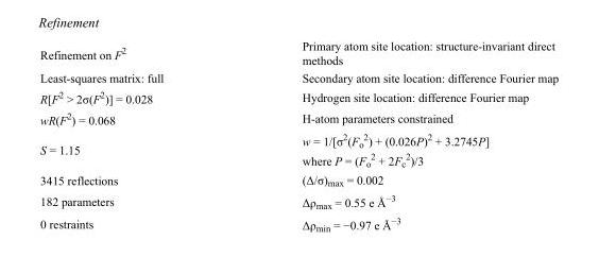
<table><tbody><tr><td>Refinement on F<sup>2</sup></td><td>Primary atom site location: structure-invariant direct methods</td></tr><tr><td>Least-squares matrix: full</td><td>Secondary atom site location: difference Fourier map</td></tr><tr><td>R[F<sup>2</sup> &gt; 2σ(F<sup>2</sup>)] = 0.028</td><td>Hydrogen site location: difference Fourier map</td></tr><tr><td>wR(F<sup>2</sup>) = 0.068</td><td>H-atom parameters constrained</td></tr><tr><td>S = 1.15</td><td>w = 1/[σ<sup>2</sup>(F<sub>o</sub> <sup>2</sup>) + (0.026P)<sup>2</sup> + 3.2745P] where P = (F<sub>o</sub> <sup>2</sup> + 2F<sub>c</sub> <sup>2</sup>)/3</td></tr><tr><td>3415 reflections</td><td>(Δ/σ)<sub>max</sub> = 0.002</td></tr><tr><td>182 parameters</td><td>Δρ<sub>max</sub> = 0.55 e Å<sup>−3</sup></td></tr><tr><td>0 restraints</td><td>Δρ<sub>min</sub> = −0.97 e Å<sup>−3</sup></td></tr></tbody></table>